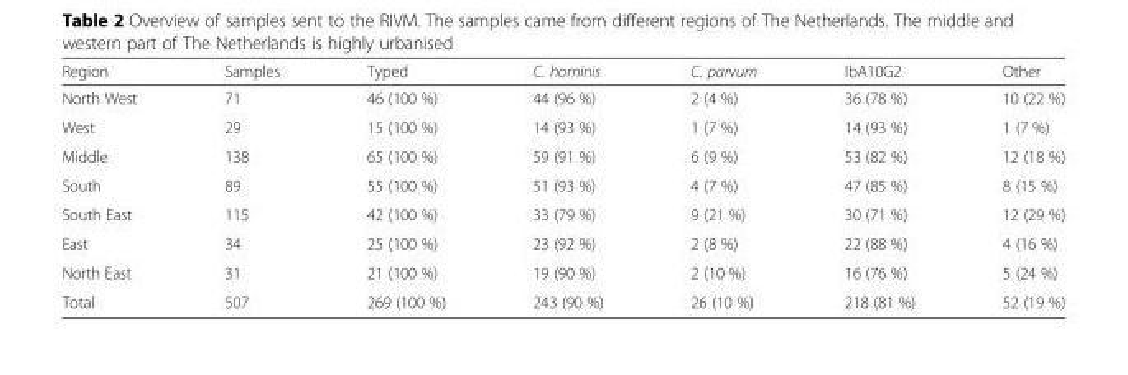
<table><thead><tr><td>Region</td><td>Samples</td><td>Typed</td><td>C. hominis</td><td>C. parvum</td><td>IbA10G2</td><td>Other</td></tr></thead><tbody><tr><td>North West</td><td>71</td><td>46 (100 %)</td><td>44 (96 %)</td><td>2 (4 %)</td><td>36 (78 %)</td><td>10 (22 %)</td></tr><tr><td>West</td><td>29</td><td>15 (100 %)</td><td>14 (93 %)</td><td>1 (7 %)</td><td>14 (93 %)</td><td>1 (7 %)</td></tr><tr><td>Middle</td><td>138</td><td>65 (100 %)</td><td>59 (91 %)</td><td>6 (9 %)</td><td>53 (82 %)</td><td>12 (18 %)</td></tr><tr><td>South</td><td>89</td><td>55 (100 %)</td><td>51 (93 %)</td><td>4 (7 %)</td><td>47 (85 %)</td><td>8 (15 %)</td></tr><tr><td>South East</td><td>115</td><td>42 (100 %)</td><td>33 (79 %)</td><td>9 (21 %)</td><td>30 (71 %)</td><td>12 (29 %)</td></tr><tr><td>East</td><td>34</td><td>25 (100 %)</td><td>23 (92 %)</td><td>2 (8 %)</td><td>22 (88 %)</td><td>4 (16 %)</td></tr><tr><td>North East</td><td>31</td><td>21 (100 %)</td><td>19 (90 %)</td><td>2 (10 %)</td><td>16 (76 %)</td><td>5 (24 %)</td></tr><tr><td>Total</td><td>507</td><td>269 (100 %)</td><td>243 (90 %)</td><td>26 (10 %)</td><td>218 (81 %)</td><td>52 (19 %)</td></tr></tbody></table>